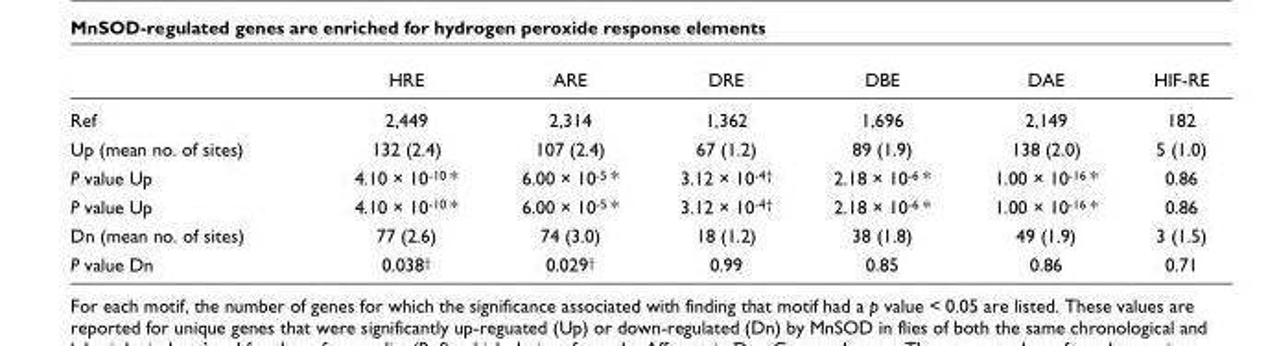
<table><thead><tr><td></td><td>HRE</td><td>ARE</td><td>DRE</td><td>DBE</td><td>DAE</td><td>HIF-RE</td></tr></thead><tbody><tr><td>Ref</td><td>2,449</td><td>2,314</td><td>1,362</td><td>1,696</td><td>2,149</td><td>182</td></tr><tr><td>Up (mean no. of sites)</td><td>132 (2.4)</td><td>107 (2.4)</td><td>67 (1.2)</td><td>89 (1.9)</td><td>138 (2.0)</td><td>5 (1.0)</td></tr><tr><td>P value Up</td><td>4.10 × 10<sup>-10</sup> *</td><td>6.00 × 10<sup>-5</sup> *</td><td>3.12 × 10<sup>-4†</sup></td><td>2.18 × 10<sup>-6</sup> *</td><td>1.00 × 10<sup>-16</sup> *</td><td>0.86</td></tr><tr><td>P value Up</td><td>4.10 × 10<sup>-10</sup> *</td><td>6.00 × 10<sup>-5</sup> *</td><td>3.12 × 10<sup>-4†</sup></td><td>2.18 × 10<sup>-6</sup> *</td><td>1.00 × 10<sup>-16</sup> *</td><td>0.86</td></tr><tr><td>Dn (mean no. of sites)</td><td>77 (2.6)</td><td>74 (3.0)</td><td>18 (1.2)</td><td>38 (1.8)</td><td>49 (1.9)</td><td>3 (1.5)</td></tr><tr><td>P value Dn</td><td>0.038<sup>†</sup></td><td>0.029<sup>†</sup></td><td>0.99</td><td>0.85</td><td>0.86</td><td>0.71</td></tr></tbody></table>